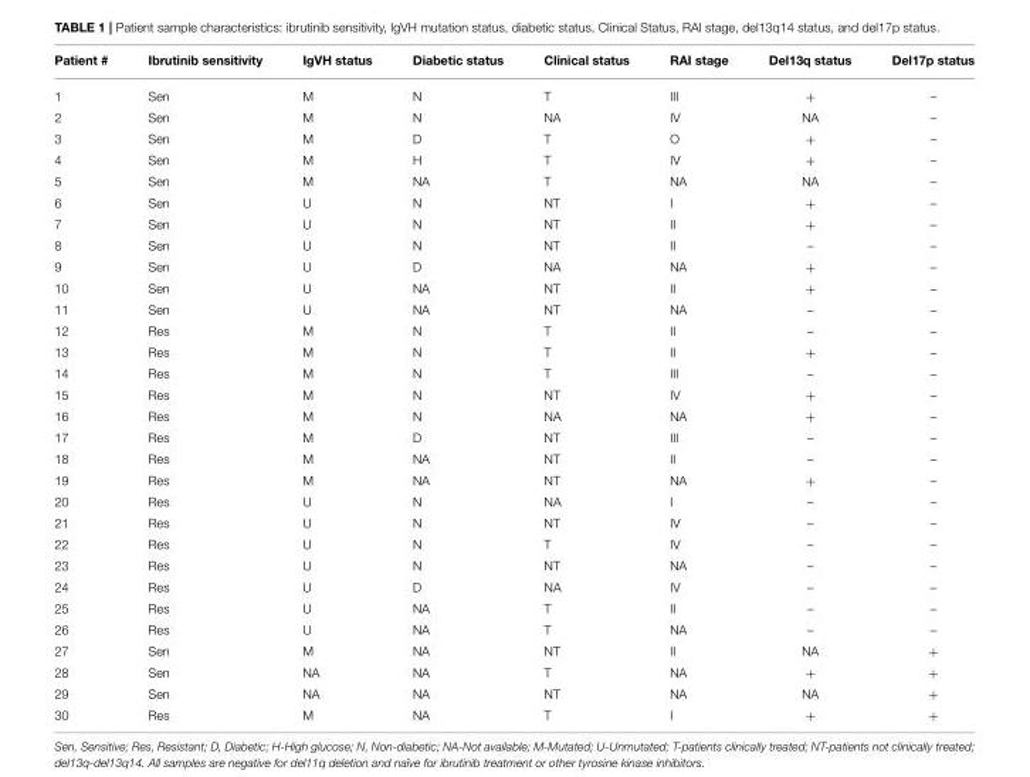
<table><thead><tr><td>Patient #</td><td>Ibrutinib sensitivity</td><td>IgVH status</td><td>Diabetic status</td><td>Clinical status</td><td>RAI stage</td><td>Del13q status</td><td>Del17p status</td></tr></thead><tbody><tr><td>1</td><td>Sen</td><td>M</td><td>N</td><td>T</td><td>III</td><td>+</td><td>–</td></tr><tr><td>2</td><td>Sen</td><td>M</td><td>N</td><td>NA</td><td>IV</td><td>NA</td><td>–</td></tr><tr><td>3</td><td>Sen</td><td>M</td><td>D</td><td>T</td><td>O</td><td>+</td><td>–</td></tr><tr><td>4</td><td>Sen</td><td>M</td><td>H</td><td>T</td><td>IV</td><td>+</td><td>–</td></tr><tr><td>5</td><td>Sen</td><td>M</td><td>NA</td><td>T</td><td>NA</td><td>NA</td><td>–</td></tr><tr><td>6</td><td>Sen</td><td>U</td><td>N</td><td>NT</td><td>I</td><td>+</td><td>–</td></tr><tr><td>7</td><td>Sen</td><td>U</td><td>N</td><td>NT</td><td>II</td><td>+</td><td>–</td></tr><tr><td>8</td><td>Sen</td><td>U</td><td>N</td><td>NT</td><td>II</td><td>–</td><td>–</td></tr><tr><td>9</td><td>Sen</td><td>U</td><td>D</td><td>NA</td><td>NA</td><td>+</td><td>–</td></tr><tr><td>10</td><td>Sen</td><td>U</td><td>NA</td><td>NT</td><td>II</td><td>+</td><td>–</td></tr><tr><td>11</td><td>Sen</td><td>U</td><td>NA</td><td>NT</td><td>NA</td><td>–</td><td>–</td></tr><tr><td>12</td><td>Res</td><td>M</td><td>N</td><td>T</td><td>II</td><td>–</td><td>–</td></tr><tr><td>13</td><td>Res</td><td>M</td><td>N</td><td>T</td><td>II</td><td>+</td><td>–</td></tr><tr><td>14</td><td>Res</td><td>M</td><td>N</td><td>T</td><td>III</td><td>–</td><td>–</td></tr><tr><td>15</td><td>Res</td><td>M</td><td>N</td><td>NT</td><td>IV</td><td>+</td><td>–</td></tr><tr><td>16</td><td>Res</td><td>M</td><td>N</td><td>NA</td><td>NA</td><td>+</td><td>–</td></tr><tr><td>17</td><td>Res</td><td>M</td><td>D</td><td>NT</td><td>III</td><td>–</td><td>–</td></tr><tr><td>18</td><td>Res</td><td>M</td><td>NA</td><td>NT</td><td>II</td><td>–</td><td>–</td></tr><tr><td>19</td><td>Res</td><td>M</td><td>NA</td><td>NT</td><td>NA</td><td>+</td><td>–</td></tr><tr><td>20</td><td>Res</td><td>U</td><td>N</td><td>NA</td><td>I</td><td>–</td><td>–</td></tr><tr><td>21</td><td>Res</td><td>U</td><td>N</td><td>NT</td><td>IV</td><td>–</td><td>–</td></tr><tr><td>22</td><td>Res</td><td>U</td><td>N</td><td>T</td><td>IV</td><td>–</td><td>–</td></tr><tr><td>23</td><td>Res</td><td>U</td><td>N</td><td>NT</td><td>NA</td><td>–</td><td>–</td></tr><tr><td>24</td><td>Res</td><td>U</td><td>D</td><td>NA</td><td>IV</td><td>–</td><td>–</td></tr><tr><td>25</td><td>Res</td><td>U</td><td>NA</td><td>T</td><td>II</td><td>–</td><td>–</td></tr><tr><td>26</td><td>Res</td><td>U</td><td>NA</td><td>T</td><td>NA</td><td>–</td><td>–</td></tr><tr><td>27</td><td>Sen</td><td>M</td><td>NA</td><td>NT</td><td>II</td><td>NA</td><td>+</td></tr><tr><td>28</td><td>Sen</td><td>NA</td><td>NA</td><td>T</td><td>NA</td><td>+</td><td>+</td></tr><tr><td>29</td><td>Sen</td><td>NA</td><td>NA</td><td>NT</td><td>NA</td><td>NA</td><td>+</td></tr><tr><td>30</td><td>Res</td><td>M</td><td>NA</td><td>T</td><td>I</td><td>+</td><td>+</td></tr></tbody></table>